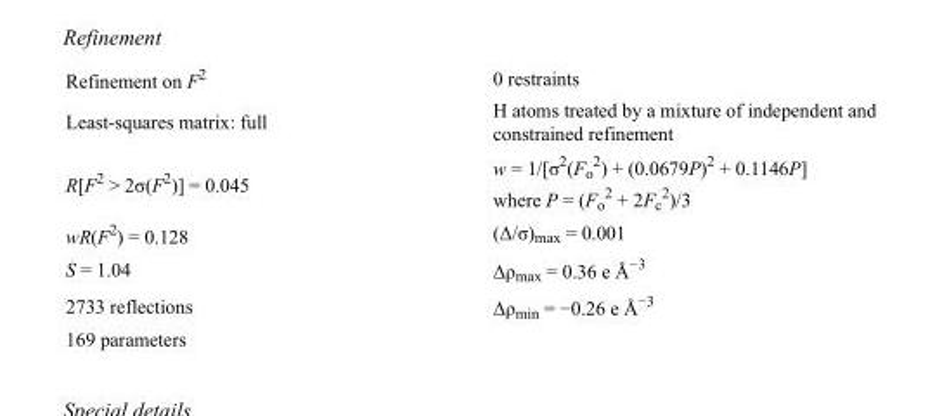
<table><tbody><tr><td>Refinement on F<sup>2</sup></td><td>0 restraints</td></tr><tr><td>Least-squares matrix: full</td><td>H atoms treated by a mixture of independent and constrained refinement</td></tr><tr><td>R[F<sup>2</sup> &gt; 2σ(F<sup>2</sup>)] = 0.045</td><td>w = 1/[σ<sup>2</sup>(F<sub>o</sub> <sup>2</sup>) + (0.0679P)<sup>2</sup> + 0.1146P] where P = (F<sub>o</sub> <sup>2</sup> + 2F<sub>c</sub> <sup>2</sup>)/3</td></tr><tr><td>wR(F<sup>2</sup>) = 0.128</td><td>(Δ/σ)<sub>max</sub> = 0.001</td></tr><tr><td>S = 1.04</td><td>Δρ<sub>max</sub> = 0.36 e Å<sup>−3</sup></td></tr><tr><td>2733 reflections</td><td>Δρ<sub>min</sub> = −0.26 e Å<sup>−3</sup></td></tr><tr><td>169 parameters</td><td></td></tr></tbody></table>